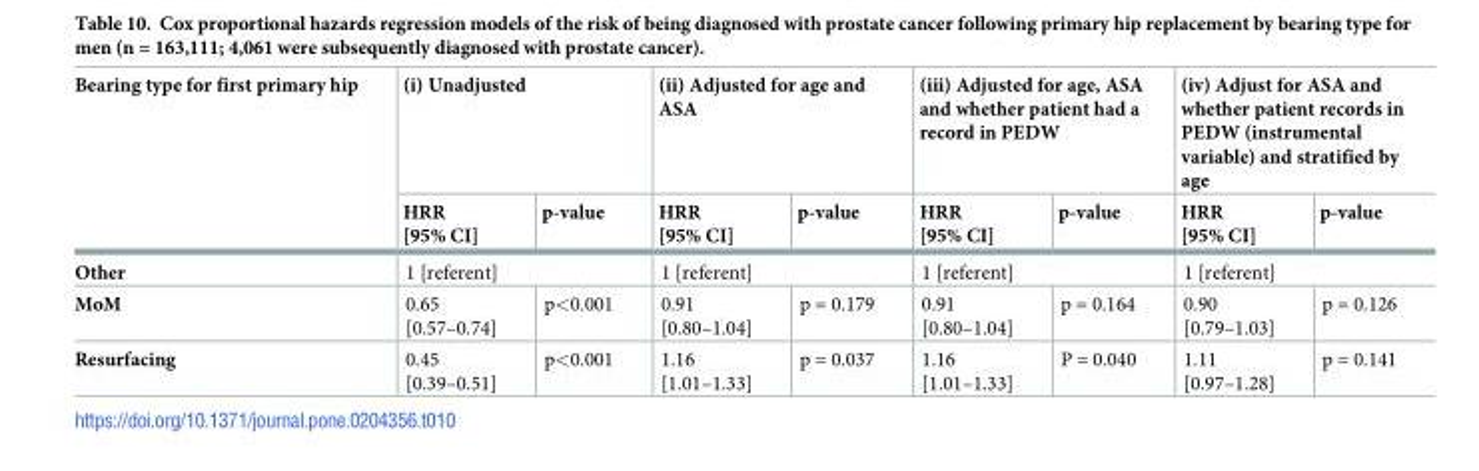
<table><thead><tr><td rowspan="2">Bearing type for first primary hip</td><td colspan="2">(i) Unadjusted</td><td colspan="2">(ii) Adjusted for age and ASA</td><td colspan="2">(iii) Adjusted for age, ASA and whether patient had a record in PEDW</td><td colspan="2">(iv) Adjust for ASA and whether patient records in PEDW (instrumental variable) and stratified by age</td></tr><tr><td>HRR [95% CI]</td><td>p-value</td><td>HRR [95% CI]</td><td>p-value</td><td>HRR [95% CI]</td><td>p-value</td><td>HRR [95% CI]</td><td>p-value</td></tr></thead><tbody><tr><td>Other</td><td colspan="2">1 [referent]</td><td colspan="2">1 [referent]</td><td colspan="2">1 [referent]</td><td colspan="2">1 [referent]</td></tr><tr><td>MoM</td><td>0.65 [0.57–0.74]</td><td>p&lt;0.001</td><td>0.91 [0.80–1.04]</td><td>p = 0.179</td><td>0.91 [0.80–1.04]</td><td>p = 0.164</td><td>0.90 [0.79–1.03]</td><td>p = 0.126</td></tr><tr><td>Resurfacing</td><td>0.45 [0.39–0.51]</td><td>p&lt;0.001</td><td>1.16 [1.01–1.33]</td><td>p = 0.037</td><td>1.16 [1.01–1.33]</td><td>P = 0.040</td><td>1.11 [0.97–1.28]</td><td>p = 0.141</td></tr></tbody></table>